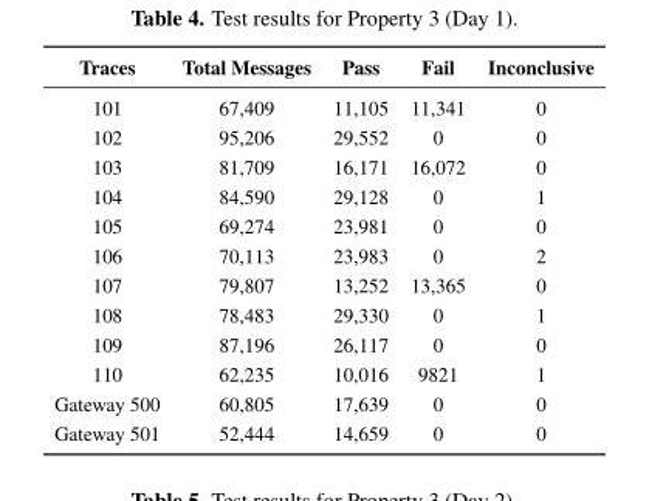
<table><thead><tr><td>Traces</td><td>Total Messages</td><td>Pass</td><td>Fail</td><td>Inconclusive</td></tr></thead><tbody><tr><td>101</td><td>67,409</td><td>11,105</td><td>11,341</td><td>0</td></tr><tr><td>102</td><td>95,206</td><td>29,552</td><td>0</td><td>0</td></tr><tr><td>103</td><td>81,709</td><td>16,171</td><td>16,072</td><td>0</td></tr><tr><td>104</td><td>84,590</td><td>29,128</td><td>0</td><td>1</td></tr><tr><td>105</td><td>69,274</td><td>23,981</td><td>0</td><td>0</td></tr><tr><td>106</td><td>70,113</td><td>23,983</td><td>0</td><td>2</td></tr><tr><td>107</td><td>79,807</td><td>13,252</td><td>13,365</td><td>0</td></tr><tr><td>108</td><td>78,483</td><td>29,330</td><td>0</td><td>1</td></tr><tr><td>109</td><td>87,196</td><td>26,117</td><td>0</td><td>0</td></tr><tr><td>110</td><td>62,235</td><td>10,016</td><td>9821</td><td>1</td></tr><tr><td>Gateway 500</td><td>60,805</td><td>17,639</td><td>0</td><td>0</td></tr><tr><td>Gateway 501</td><td>52,444</td><td>14,659</td><td>0</td><td>0</td></tr></tbody></table>